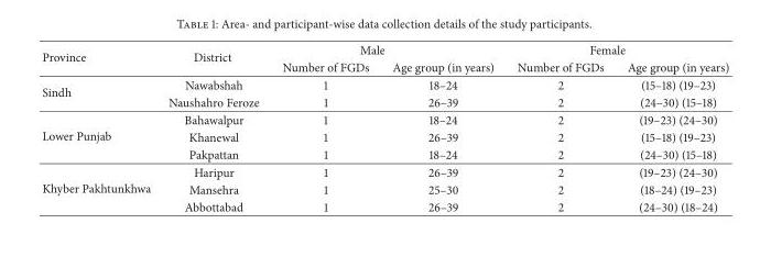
<table><thead><tr><td rowspan="2">Province</td><td rowspan="2">District</td><td colspan="2">Male</td><td colspan="2">Female</td></tr><tr><td>Number of FGDs</td><td>Age group (in years)</td><td>Number of FGDs</td><td>Age group (in years)</td></tr></thead><tbody><tr><td rowspan="2">Sindh</td><td>Nawabshah</td><td>1</td><td>18–24</td><td>2</td><td>(15–18) (19–23)</td></tr><tr><td>Naushahro Feroze</td><td>1</td><td>26–39</td><td>2</td><td>(24–30) (15–18)</td></tr><tr><td rowspan="3">Lower Punjab</td><td>Bahawalpur</td><td>1</td><td>18–24</td><td>2</td><td>(19–23) (24–30)</td></tr><tr><td>Khanewal</td><td>1</td><td>26–39</td><td>2</td><td>(15–18) (19–23)</td></tr><tr><td>Pakpattan</td><td>1</td><td>18–24</td><td>2</td><td>(24–30) (15–18)</td></tr><tr><td rowspan="3">Khyber Pakhtunkhwa</td><td>Haripur</td><td>1</td><td>26–39</td><td>2</td><td>(19–23) (24–30)</td></tr><tr><td>Mansehra</td><td>1</td><td>25–30</td><td>2</td><td>(18–24) (19–23)</td></tr><tr><td>Abbottabad</td><td>1</td><td>26–39</td><td>2</td><td>(24–30) (18–24)</td></tr></tbody></table>